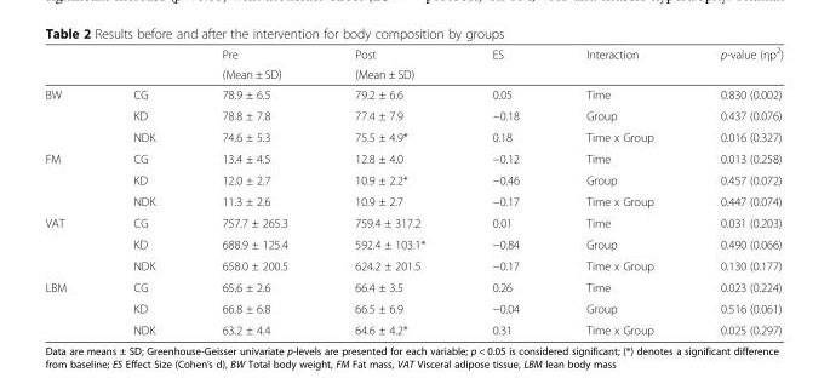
<table><thead><tr><td rowspan="2"></td><td rowspan="2"></td><td rowspan="2">Pre (Mean ± SD)</td><td rowspan="2">Post (Mean ± SD)</td><td rowspan="2">ES</td><td rowspan="2">Interaction</td><td rowspan="2">p-value (ηp<sup>2</sup>)</td></tr><tr></tr></thead><tbody><tr><td rowspan="3">BW</td><td>CG</td><td>78.9 ± 6.5</td><td>79.2 ± 6.6</td><td>0.05</td><td>Time</td><td>0.830 (0.002)</td></tr><tr><td>KD</td><td>78.8 ± 7.8</td><td>77.4 ± 7.9</td><td>−0.18</td><td>Group</td><td>0.437 (0.076)</td></tr><tr><td>NDK</td><td>74.6 ± 5.3</td><td>75.5 ± 4.9*</td><td>0.18</td><td>Time x Group</td><td>0.016 (0.327)</td></tr><tr><td rowspan="3">FM</td><td>CG</td><td>13.4 ± 4.5</td><td>12.8 ± 4.0</td><td>−0.12</td><td>Time</td><td>0.013 (0.258)</td></tr><tr><td>KD</td><td>12.0 ± 2.7</td><td>10.9 ± 2.2*</td><td>−0.46</td><td>Group</td><td>0.457 (0.072)</td></tr><tr><td>NDK</td><td>11.3 ± 2.6</td><td>10.9 ± 2.7</td><td>−0.17</td><td>Time x Group</td><td>0.447 (0.074)</td></tr><tr><td rowspan="3">VAT</td><td>CG</td><td>757.7 ± 265.3</td><td>759.4 ± 317.2</td><td>0.01</td><td>Time</td><td>0.031 (0.203)</td></tr><tr><td>KD</td><td>688.9 ± 125.4</td><td>592.4 ± 103.1*</td><td>−0.84</td><td>Group</td><td>0.490 (0.066)</td></tr><tr><td>NDK</td><td>658.0 ± 200.5</td><td>624.2 ± 201.5</td><td>−0.17</td><td>Time x Group</td><td>0.130 (0.177)</td></tr><tr><td rowspan="3">LBM</td><td>CG</td><td>65.6 ± 2.6</td><td>66.4 ± 3.5</td><td>0.26</td><td>Time</td><td>0.023 (0.224)</td></tr><tr><td>KD</td><td>66.8 ± 6.8</td><td>66.5 ± 6.9</td><td>−0.04</td><td>Group</td><td>0.516 (0.061)</td></tr><tr><td>NDK</td><td>63.2 ± 4.4</td><td>64.6 ± 4.2*</td><td>0.31</td><td>Time x Group</td><td>0.025 (0.297)</td></tr></tbody></table>